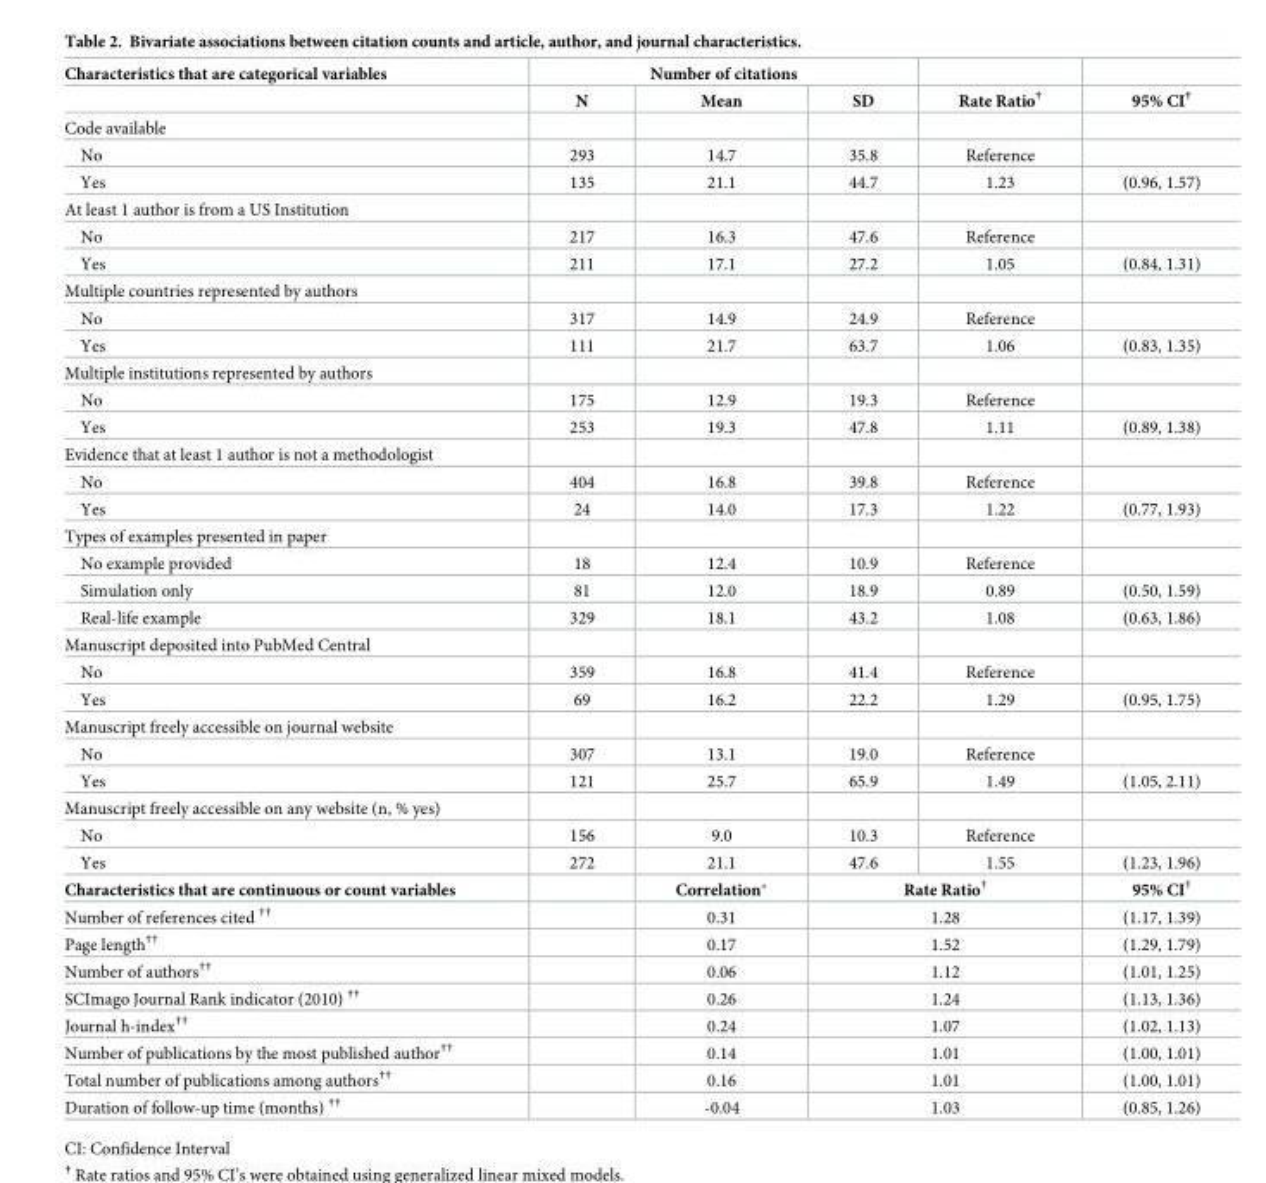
<table><thead><tr><td rowspan="2">Characteristics that are categorical variables</td><td colspan="3">Number of citations</td><td rowspan="2">Rate Ratio†</td><td rowspan="2">95% CI†</td></tr><tr><td>N</td><td>Mean</td><td>SD</td></tr></thead><tbody><tr><td colspan="6">Code available</td></tr><tr><td>No</td><td>293</td><td>14.7</td><td>35.8</td><td>Reference</td><td></td></tr><tr><td>Yes</td><td>135</td><td>21.1</td><td>44.7</td><td>1.23</td><td>(0.96, 1.57)</td></tr><tr><td colspan="6">At least 1 author is from a US Institution</td></tr><tr><td>No</td><td>217</td><td>16.3</td><td>47.6</td><td>Reference</td><td></td></tr><tr><td>Yes</td><td>211</td><td>17.1</td><td>27.2</td><td>1.05</td><td>(0.84, 1.31)</td></tr><tr><td colspan="6">Multiple countries represented by authors</td></tr><tr><td>No</td><td>317</td><td>14.9</td><td>24.9</td><td>Reference</td><td></td></tr><tr><td>Yes</td><td>111</td><td>21.7</td><td>63.7</td><td>1.06</td><td>(0.83, 1.35)</td></tr><tr><td colspan="6">Multiple institutions represented by authors</td></tr><tr><td>No</td><td>175</td><td>12.9</td><td>19.3</td><td>Reference</td><td></td></tr><tr><td>Yes</td><td>253</td><td>19.3</td><td>47.8</td><td>1.11</td><td>(0.89, 1.38)</td></tr><tr><td colspan="6">Evidence that at least 1 author is not a methodologist</td></tr><tr><td>No</td><td>404</td><td>16.8</td><td>39.8</td><td>Reference</td><td></td></tr><tr><td>Yes</td><td>24</td><td>14.0</td><td>17.3</td><td>1.22</td><td>(0.77, 1.93)</td></tr><tr><td colspan="6">Types of examples presented in paper</td></tr><tr><td>No example provided</td><td>18</td><td>12.4</td><td>10.9</td><td>Reference</td><td></td></tr><tr><td>Simulation only</td><td>81</td><td>12.0</td><td>18.9</td><td>0.89</td><td>(0.50, 1.59)</td></tr><tr><td>Real-life example</td><td>329</td><td>18.1</td><td>43.2</td><td>1.08</td><td>(0.63, 1.86)</td></tr><tr><td colspan="6">Manuscript deposited into PubMed Central</td></tr><tr><td>No</td><td>359</td><td>16.8</td><td>41.4</td><td>Reference</td><td></td></tr><tr><td>Yes</td><td>69</td><td>16.2</td><td>22.2</td><td>1.29</td><td>(0.95, 1.75)</td></tr><tr><td colspan="6">Manuscript freely accessible on journal website</td></tr><tr><td>No</td><td>307</td><td>13.1</td><td>19.0</td><td>Reference</td><td></td></tr><tr><td>Yes</td><td>121</td><td>25.7</td><td>65.9</td><td>1.49</td><td>(1.05, 2.11)</td></tr><tr><td colspan="6">Manuscript freely accessible on any website (n, % yes)</td></tr><tr><td>No</td><td>156</td><td>9.0</td><td>10.3</td><td>Reference</td><td></td></tr><tr><td>Yes</td><td>272</td><td>21.1</td><td>47.6</td><td>1.55</td><td>(1.23, 1.96)</td></tr><tr><td>Characteristics that are continuous or count variables</td><td></td><td>Correlation*</td><td colspan="2">Rate Ratio<sup>†</sup></td><td>95% CI<sup>†</sup></td></tr><tr><td>Number of references cited <sup>††</sup></td><td></td><td>0.31</td><td colspan="2">1.28</td><td>(1.17, 1.39)</td></tr><tr><td>Page length<sup>††</sup></td><td></td><td>0.17</td><td colspan="2">1.52</td><td>(1.29, 1.79)</td></tr><tr><td>Number of authors<sup>††</sup></td><td></td><td>0.06</td><td colspan="2">1.12</td><td>(1.01, 1.25)</td></tr><tr><td>SCImago Journal Rank indicator (2010) <sup>††</sup></td><td></td><td>0.26</td><td colspan="2">1.24</td><td>(1.13, 1.36)</td></tr><tr><td>Journal h-index<sup>††</sup></td><td></td><td>0.24</td><td colspan="2">1.07</td><td>(1.02, 1.13)</td></tr><tr><td>Number of publications by the most published author<sup>††</sup></td><td></td><td>0.14</td><td colspan="2">1.01</td><td>(1.00, 1.01)</td></tr><tr><td>Total number of publications among authors<sup>††</sup></td><td></td><td>0.16</td><td colspan="2">1.01</td><td>(1.00, 1.01)</td></tr><tr><td>Duration of follow-up time (months) <sup>††</sup></td><td></td><td>-0.04</td><td colspan="2">1.03</td><td>(0.85, 1.26)</td></tr></tbody></table>